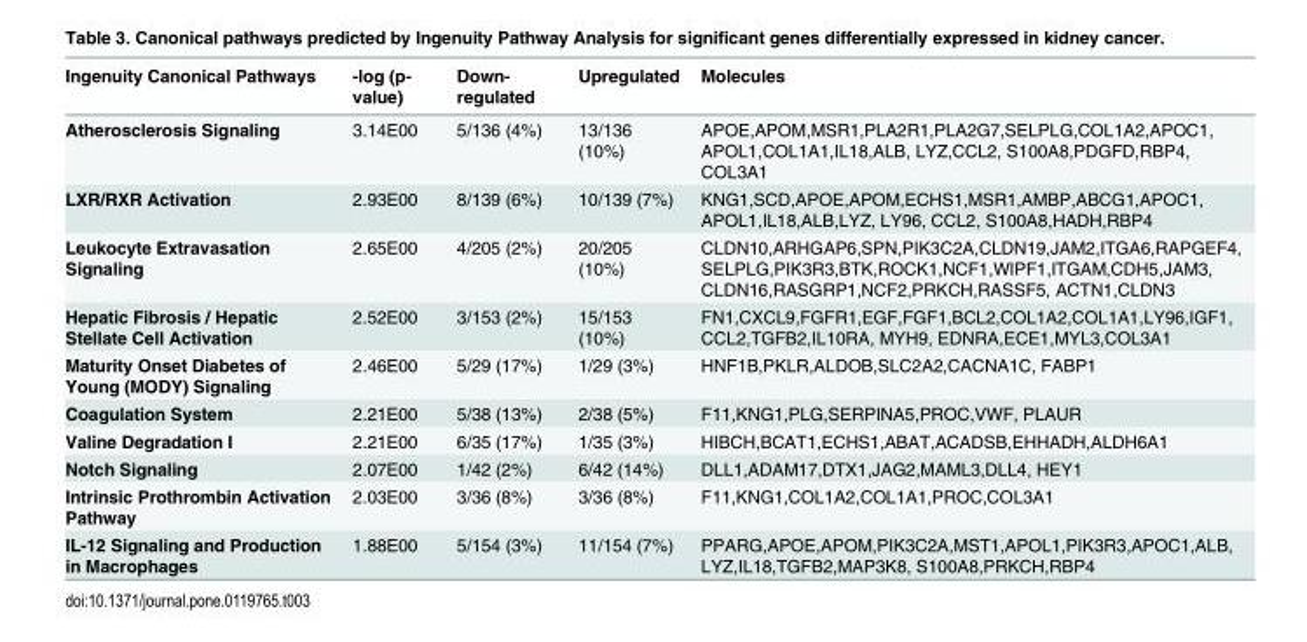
<table><thead><tr><td>Ingenuity Canonical Pathways</td><td>-log (p- value)</td><td>Down- regulated</td><td>Upregulated</td><td>Molecules</td></tr></thead><tbody><tr><td>Atherosclerosis Signaling</td><td>3.14E00</td><td>5/136 (4%)</td><td>13/136 (10%)</td><td>APOE,APOM,MSR1,PLA2R1,PLA2G7,SELPLG,COL1A2,APOC1, APOL1,COL1A1,IL18,ALB, LYZ,CCL2, S100A8,PDGFD,RBP4, COL3A1</td></tr><tr><td>LXR/RXR Activation</td><td>2.93E00</td><td>8/139 (6%)</td><td>10/139 (7%)</td><td>KNG1,SCD,APOE,APOM,ECHS1,MSR1,AMBP,ABCG1,APOC1, APOL1,IL18,ALB,LYZ, LY96, CCL2, S100A8,HADH,RBP4</td></tr><tr><td>Leukocyte Extravasation Signaling</td><td>2.65E00</td><td>4/205 (2%)</td><td>20/205 (10%)</td><td>CLDN10,ARHGAP6,SPN,PIK3C2A,CLDN19,JAM2,ITGA6,RAPGEF4, SELPLG,PIK3R3,BTK,ROCK1,NCF1,WIPF1,ITGAM,CDH5,JAM3, CLDN16,RASGRP1,NCF2,PRKCH,RASSF5, ACTN1,CLDN3</td></tr><tr><td>Hepatic Fibrosis / Hepatic Stellate Cell Activation</td><td>2.52E00</td><td>3/153 (2%)</td><td>15/153 (10%)</td><td>FN1,CXCL9,FGFR1,EGF,FGF1,BCL2,COL1A2,COL1A1,LY96,IGF1, CCL2,TGFB2,IL10RA, MYH9, EDNRA,ECE1,MYL3,COL3A1</td></tr><tr><td>Maturity Onset Diabetes of Young (MODY) Signaling</td><td>2.46E00</td><td>5/29 (17%)</td><td>1/29 (3%)</td><td>HNF1B,PKLR,ALDOB,SLC2A2,CACNA1C, FABP1</td></tr><tr><td>Coagulation System</td><td>2.21E00</td><td>5/38 (13%)</td><td>2/38 (5%)</td><td>F11,KNG1,PLG,SERPINA5,PROC,VWF, PLAUR</td></tr><tr><td>Valine Degradation I</td><td>2.21E00</td><td>6/35 (17%)</td><td>1/35 (3%)</td><td>HIBCH,BCAT1,ECHS1,ABAT,ACADSB,EHHADH,ALDH6A1</td></tr><tr><td>Notch Signaling</td><td>2.07E00</td><td>1/42 (2%)</td><td>6/42 (14%)</td><td>DLL1,ADAM17,DTX1,JAG2,MAML3,DLL4, HEY1</td></tr><tr><td>Intrinsic Prothrombin Activation Pathway</td><td>2.03E00</td><td>3/36 (8%)</td><td>3/36 (8%)</td><td>F11,KNG1,COL1A2,COL1A1,PROC,COL3A1</td></tr><tr><td>IL-12 Signaling and Production in Macrophages</td><td>1.88E00</td><td>5/154 (3%)</td><td>11/154 (7%)</td><td>PPARG,APOE,APOM,PIK3C2A,MST1,APOL1,PIK3R3,APOC1,ALB, LYZ,IL18,TGFB2,MAP3K8, S100A8,PRKCH,RBP4</td></tr></tbody></table>